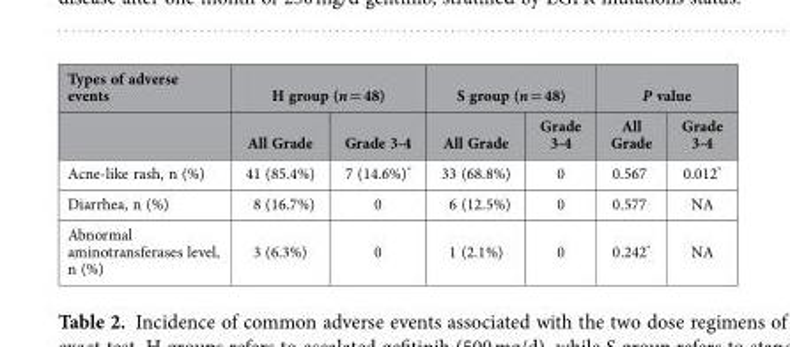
<table><thead><tr><td rowspan="2">Types of adverse events</td><td colspan="2">H group (n = 48)</td><td colspan="2">S group (n = 48)</td><td colspan="2">P value</td></tr><tr><td>All Grade</td><td>Grade 3-4</td><td>All Grade</td><td>Grade 3-4</td><td>All Grade</td><td>Grade 3-4</td></tr></thead><tbody><tr><td>Acne-like rash, n (%)</td><td>41 (85.4%)</td><td>7 (14.6%)*</td><td>33 (68.8%)</td><td>0</td><td>0.567</td><td>0.012*</td></tr><tr><td>Diarrhea, n (%)</td><td>8 (16.7%)</td><td>0</td><td>6 (12.5%)</td><td>0</td><td>0.577</td><td>NA</td></tr><tr><td>Abnormal aminotransferases level, n (%)</td><td>3 (6.3%)</td><td>0</td><td>1 (2.1%)</td><td>0</td><td>0.242*</td><td>NA</td></tr></tbody></table>